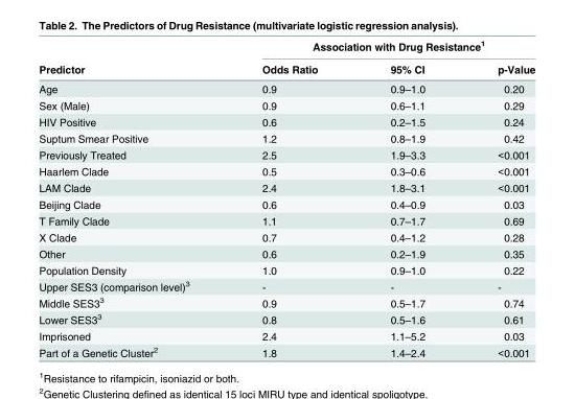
<table><thead><tr><td rowspan="2">Predictor</td><td colspan="3">Association with Drug Resistance<sup>1</sup></td></tr><tr><td>Odds Ratio</td><td>95% CI</td><td>p-Value</td></tr></thead><tbody><tr><td>Age</td><td>0.9</td><td>0.9–1.0</td><td>0.20</td></tr><tr><td>Sex (Male)</td><td>0.9</td><td>0.6–1.1</td><td>0.29</td></tr><tr><td>HIV Positive</td><td>0.6</td><td>0.2–1.5</td><td>0.24</td></tr><tr><td>Suptum Smear Positive</td><td>1.2</td><td>0.8–1.9</td><td>0.42</td></tr><tr><td>Previously Treated</td><td>2.5</td><td>1.9–3.3</td><td>&lt;0.001</td></tr><tr><td>Haarlem Clade</td><td>0.5</td><td>0.3–0.6</td><td>&lt;0.001</td></tr><tr><td>LAM Clade</td><td>2.4</td><td>1.8–3.1</td><td>&lt;0.001</td></tr><tr><td>Beijing Clade</td><td>0.6</td><td>0.4–0.9</td><td>0.03</td></tr><tr><td>T Family Clade</td><td>1.1</td><td>0.7–1.7</td><td>0.69</td></tr><tr><td>X Clade</td><td>0.7</td><td>0.4–1.2</td><td>0.28</td></tr><tr><td>Other</td><td>0.6</td><td>0.2–1.9</td><td>0.35</td></tr><tr><td>Population Density</td><td>1.0</td><td>0.9–1.0</td><td>0.22</td></tr><tr><td>Upper SES3 (comparison level)<sup>3</sup></td><td>-</td><td>-</td><td>-</td></tr><tr><td>Middle SES3<sup>3</sup></td><td>0.9</td><td>0.5–1.7</td><td>0.74</td></tr><tr><td>Lower SES3<sup>3</sup></td><td>0.8</td><td>0.5–1.6</td><td>0.61</td></tr><tr><td>Imprisoned</td><td>2.4</td><td>1.1–5.2</td><td>0.03</td></tr><tr><td>Part of a Genetic Cluster<sup>2</sup></td><td>1.8</td><td>1.4–2.4</td><td>&lt;0.001</td></tr></tbody></table>